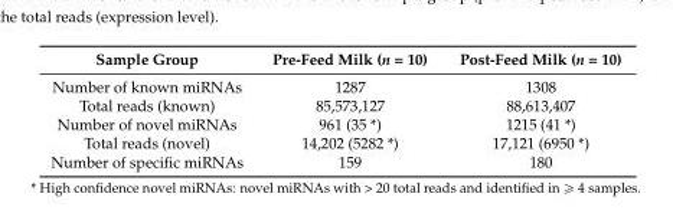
<table><thead><tr><td>Sample Group</td><td>Pre-Feed Milk (n = 10)</td><td>Post-Feed Milk (n = 10)</td></tr></thead><tbody><tr><td>Number of known miRNAs</td><td>1287</td><td>1308</td></tr><tr><td>Total reads (known)</td><td>85,573,127</td><td>88,613,407</td></tr><tr><td>Number of novel miRNAs</td><td>961 (35 *)</td><td>1215 (41 *)</td></tr><tr><td>Total reads (novel)</td><td>14,202 (5282 *)</td><td>17,121 (6950 *)</td></tr><tr><td>Number of specific miRNAs</td><td>159</td><td>180</td></tr></tbody></table>